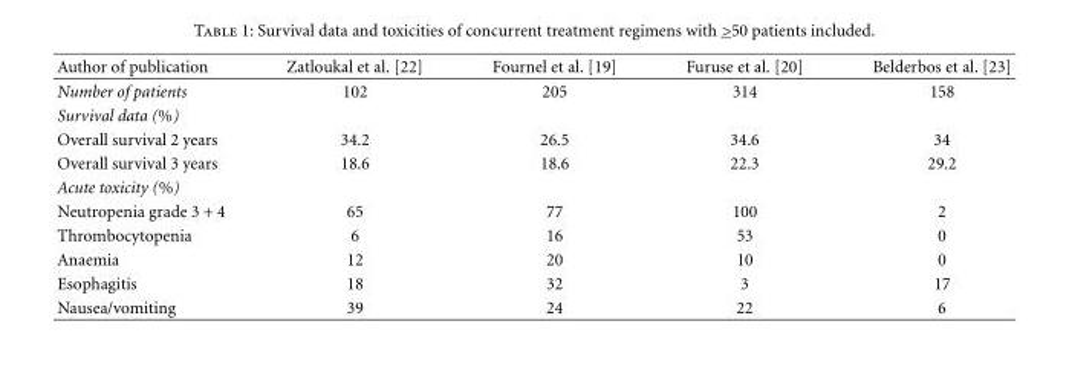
<table><thead><tr><td>Author of publication</td><td>Zatloukal et al. [22]</td><td>Fournel et al. [19]</td><td>Furuse et al. [20]</td><td>Belderbos et al. [23]</td></tr></thead><tbody><tr><td>Number of patients</td><td>102</td><td>205</td><td>314</td><td>158</td></tr><tr><td colspan="5">Survival data (%)</td></tr><tr><td>Overall survival 2 years</td><td>34.2</td><td>26.5</td><td>34.6</td><td>34</td></tr><tr><td>Overall survival 3 years</td><td>18.6</td><td>18.6</td><td>22.3</td><td>29.2</td></tr><tr><td colspan="5">Acute toxicity (%)</td></tr><tr><td>Neutropenia grade 3 + 4</td><td>65</td><td>77</td><td>100</td><td>2</td></tr><tr><td>Thrombocytopenia</td><td>6</td><td>16</td><td>53</td><td>0</td></tr><tr><td>Anaemia</td><td>12</td><td>20</td><td>10</td><td>0</td></tr><tr><td>Esophagitis</td><td>18</td><td>32</td><td>3</td><td>17</td></tr><tr><td>Nausea/vomiting</td><td>39</td><td>24</td><td>22</td><td>6</td></tr></tbody></table>